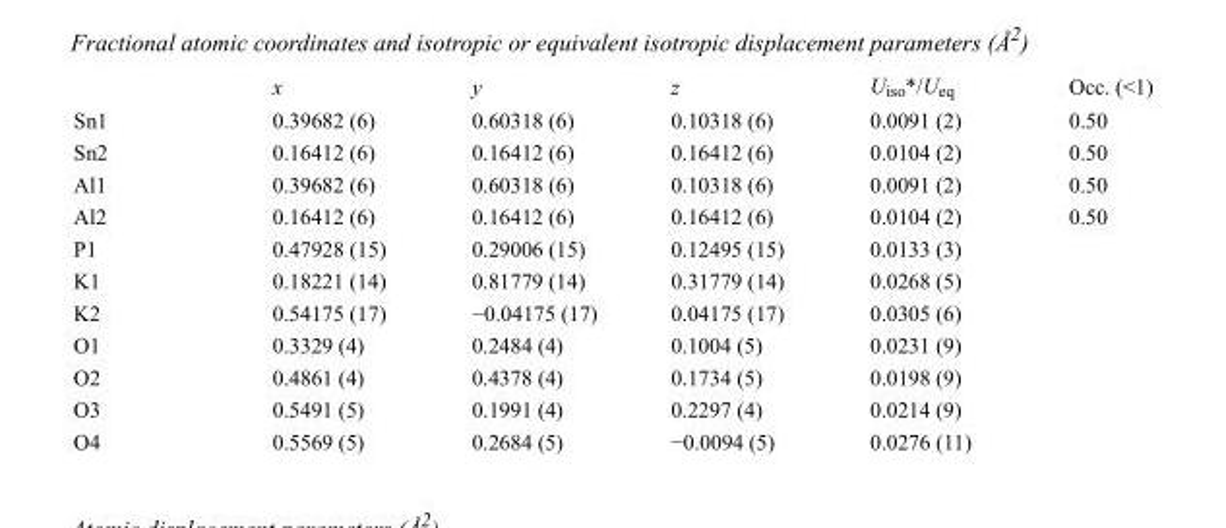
<table><thead><tr><td></td><td>x</td><td>y</td><td>z</td><td>U<sub>iso</sub>*/U<sub>eq</sub></td><td>Occ. (&lt;1)</td></tr></thead><tbody><tr><td>Sn1</td><td>0.39682 (6)</td><td>0.60318 (6)</td><td>0.10318 (6)</td><td>0.0091 (2)</td><td>0.50</td></tr><tr><td>Sn2</td><td>0.16412 (6)</td><td>0.16412 (6)</td><td>0.16412 (6)</td><td>0.0104 (2)</td><td>0.50</td></tr><tr><td>Al1</td><td>0.39682 (6)</td><td>0.60318 (6)</td><td>0.10318 (6)</td><td>0.0091 (2)</td><td>0.50</td></tr><tr><td>Al2</td><td>0.16412 (6)</td><td>0.16412 (6)</td><td>0.16412 (6)</td><td>0.0104 (2)</td><td>0.50</td></tr><tr><td>P1</td><td>0.47928 (15)</td><td>0.29006 (15)</td><td>0.12495 (15)</td><td>0.0133 (3)</td><td></td></tr><tr><td>K1</td><td>0.18221 (14)</td><td>0.81779 (14)</td><td>0.31779 (14)</td><td>0.0268 (5)</td><td></td></tr><tr><td>K2</td><td>0.54175 (17)</td><td>−0.04175 (17)</td><td>0.04175 (17)</td><td>0.0305 (6)</td><td></td></tr><tr><td>O1</td><td>0.3329 (4)</td><td>0.2484 (4)</td><td>0.1004 (5)</td><td>0.0231 (9)</td><td></td></tr><tr><td>O2</td><td>0.4861 (4)</td><td>0.4378 (4)</td><td>0.1734 (5)</td><td>0.0198 (9)</td><td></td></tr><tr><td>O3</td><td>0.5491 (5)</td><td>0.1991 (4)</td><td>0.2297 (4)</td><td>0.0214 (9)</td><td></td></tr><tr><td>O4</td><td>0.5569 (5)</td><td>0.2684 (5)</td><td>−0.0094 (5)</td><td>0.0276 (11)</td><td></td></tr></tbody></table>